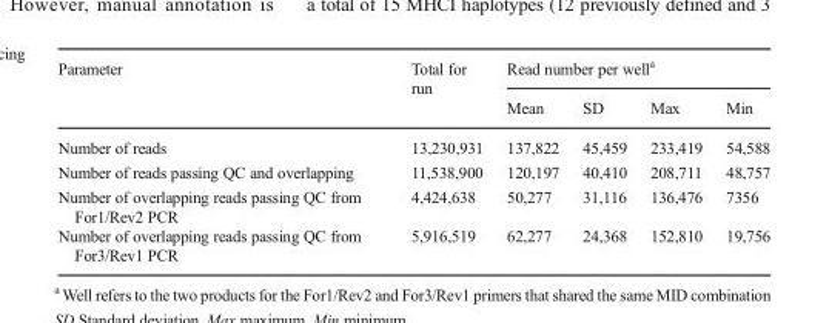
<table><thead><tr><td rowspan="2">Parameter</td><td rowspan="2">Total for run</td><td colspan="4">Read number per well<sup>a</sup></td></tr><tr><td>Mean</td><td>SD</td><td>Max</td><td>Min</td></tr></thead><tbody><tr><td>Number of reads</td><td>13,230,931</td><td>137,822</td><td>45,459</td><td>233,419</td><td>54,588</td></tr><tr><td>Number of reads passing QC and overlapping</td><td>11,538,900</td><td>120,197</td><td>40,410</td><td>208,711</td><td>48,757</td></tr><tr><td>Number of overlapping reads passing QC from For1/Rev2 PCR</td><td>4,424,638</td><td>50,277</td><td>31,116</td><td>136,476</td><td>7356</td></tr><tr><td>Number of overlapping reads passing QC from For3/Rev1 PCR</td><td>5,916,519</td><td>62,277</td><td>24,368</td><td>152,810</td><td>19,756</td></tr></tbody></table>